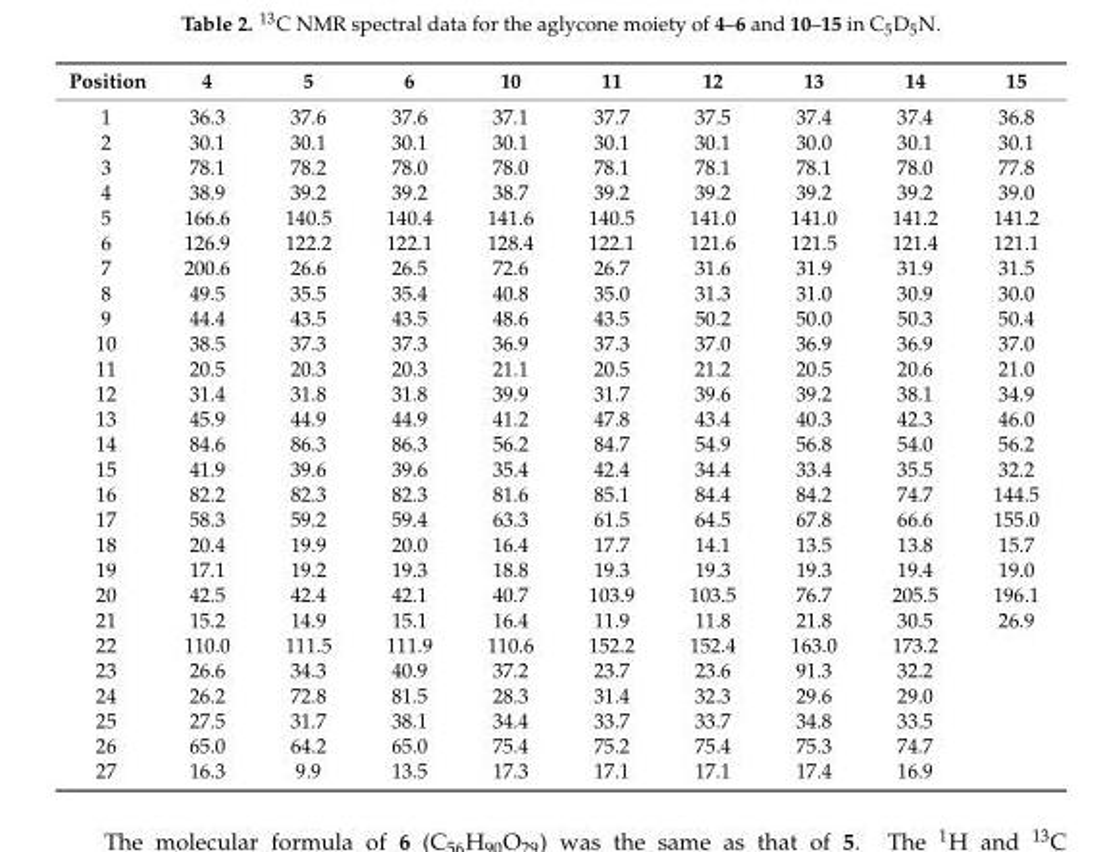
<table><thead><tr><td>Position</td><td>4</td><td>5</td><td>6</td><td>10</td><td>11</td><td>12</td><td>13</td><td>14</td><td>15</td></tr></thead><tbody><tr><td>1</td><td>36.3</td><td>37.6</td><td>37.6</td><td>37.1</td><td>37.7</td><td>37.5</td><td>37.4</td><td>37.4</td><td>36.8</td></tr><tr><td>2</td><td>30.1</td><td>30.1</td><td>30.1</td><td>30.1</td><td>30.1</td><td>30.1</td><td>30.0</td><td>30.1</td><td>30.1</td></tr><tr><td>3</td><td>78.1</td><td>78.2</td><td>78.0</td><td>78.0</td><td>78.1</td><td>78.1</td><td>78.1</td><td>78.0</td><td>77.8</td></tr><tr><td>4</td><td>38.9</td><td>39.2</td><td>39.2</td><td>38.7</td><td>39.2</td><td>39.2</td><td>39.2</td><td>39.2</td><td>39.0</td></tr><tr><td>5</td><td>166.6</td><td>140.5</td><td>140.4</td><td>141.6</td><td>140.5</td><td>141.0</td><td>141.0</td><td>141.2</td><td>141.2</td></tr><tr><td>6</td><td>126.9</td><td>122.2</td><td>122.1</td><td>128.4</td><td>122.1</td><td>121.6</td><td>121.5</td><td>121.4</td><td>121.1</td></tr><tr><td>7</td><td>200.6</td><td>26.6</td><td>26.5</td><td>72.6</td><td>26.7</td><td>31.6</td><td>31.9</td><td>31.9</td><td>31.5</td></tr><tr><td>8</td><td>49.5</td><td>35.5</td><td>35.4</td><td>40.8</td><td>35.0</td><td>31.3</td><td>31.0</td><td>30.9</td><td>30.0</td></tr><tr><td>9</td><td>44.4</td><td>43.5</td><td>43.5</td><td>48.6</td><td>43.5</td><td>50.2</td><td>50.0</td><td>50.3</td><td>50.4</td></tr><tr><td>10</td><td>38.5</td><td>37.3</td><td>37.3</td><td>36.9</td><td>37.3</td><td>37.0</td><td>36.9</td><td>36.9</td><td>37.0</td></tr><tr><td>11</td><td>20.5</td><td>20.3</td><td>20.3</td><td>21.1</td><td>20.5</td><td>21.2</td><td>20.5</td><td>20.6</td><td>21.0</td></tr><tr><td>12</td><td>31.4</td><td>31.8</td><td>31.8</td><td>39.9</td><td>31.7</td><td>39.6</td><td>39.2</td><td>38.1</td><td>34.9</td></tr><tr><td>13</td><td>45.9</td><td>44.9</td><td>44.9</td><td>41.2</td><td>47.8</td><td>43.4</td><td>40.3</td><td>42.3</td><td>46.0</td></tr><tr><td>14</td><td>84.6</td><td>86.3</td><td>86.3</td><td>56.2</td><td>84.7</td><td>54.9</td><td>56.8</td><td>54.0</td><td>56.2</td></tr><tr><td>15</td><td>41.9</td><td>39.6</td><td>39.6</td><td>35.4</td><td>42.4</td><td>34.4</td><td>33.4</td><td>35.5</td><td>32.2</td></tr><tr><td>16</td><td>82.2</td><td>82.3</td><td>82.3</td><td>81.6</td><td>85.1</td><td>84.4</td><td>84.2</td><td>74.7</td><td>144.5</td></tr><tr><td>17</td><td>58.3</td><td>59.2</td><td>59.4</td><td>63.3</td><td>61.5</td><td>64.5</td><td>67.8</td><td>66.6</td><td>155.0</td></tr><tr><td>18</td><td>20.4</td><td>19.9</td><td>20.0</td><td>16.4</td><td>17.7</td><td>14.1</td><td>13.5</td><td>13.8</td><td>15.7</td></tr><tr><td>19</td><td>17.1</td><td>19.2</td><td>19.3</td><td>18.8</td><td>19.3</td><td>19.3</td><td>19.3</td><td>19.4</td><td>19.0</td></tr><tr><td>20</td><td>42.5</td><td>42.4</td><td>42.1</td><td>40.7</td><td>103.9</td><td>103.5</td><td>76.7</td><td>205.5</td><td>196.1</td></tr><tr><td>21</td><td>15.2</td><td>14.9</td><td>15.1</td><td>16.4</td><td>11.9</td><td>11.8</td><td>21.8</td><td>30.5</td><td>26.9</td></tr><tr><td>22</td><td>110.0</td><td>111.5</td><td>111.9</td><td>110.6</td><td>152.2</td><td>152.4</td><td>163.0</td><td>173.2</td><td></td></tr><tr><td>23</td><td>26.6</td><td>34.3</td><td>40.9</td><td>37.2</td><td>23.7</td><td>23.6</td><td>91.3</td><td>32.2</td><td></td></tr><tr><td>24</td><td>26.2</td><td>72.8</td><td>81.5</td><td>28.3</td><td>31.4</td><td>32.3</td><td>29.6</td><td>29.0</td><td></td></tr><tr><td>25</td><td>27.5</td><td>31.7</td><td>38.1</td><td>34.4</td><td>33.7</td><td>33.7</td><td>34.8</td><td>33.5</td><td></td></tr><tr><td>26</td><td>65.0</td><td>64.2</td><td>65.0</td><td>75.4</td><td>75.2</td><td>75.4</td><td>75.3</td><td>74.7</td><td></td></tr><tr><td>27</td><td>16.3</td><td>9.9</td><td>13.5</td><td>17.3</td><td>17.1</td><td>17.1</td><td>17.4</td><td>16.9</td><td></td></tr></tbody></table>